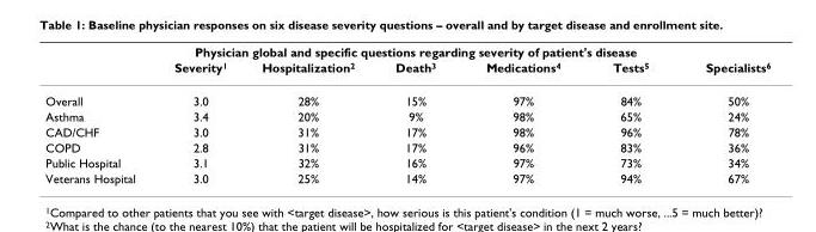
<table><thead><tr><td colspan="7">Physician global and specific questions regarding severity of patient&#x27;s disease</td></tr><tr><td></td><td>Severity<sup>1</sup></td><td>Hospitalization<sup>2</sup></td><td>Death<sup>3</sup></td><td>Medications<sup>4</sup></td><td>Tests<sup>5</sup></td><td>Specialists<sup>6</sup></td></tr></thead><tbody><tr><td>Overall</td><td>3.0</td><td>28%</td><td>15%</td><td>97%</td><td>84%</td><td>50%</td></tr><tr><td>Asthma</td><td>3.4</td><td>20%</td><td>9%</td><td>98%</td><td>65%</td><td>24%</td></tr><tr><td>CAD/CHF</td><td>3.0</td><td>31%</td><td>17%</td><td>98%</td><td>96%</td><td>78%</td></tr><tr><td>COPD</td><td>2.8</td><td>31%</td><td>17%</td><td>96%</td><td>83%</td><td>36%</td></tr><tr><td>Public Hospital</td><td>3.1</td><td>32%</td><td>16%</td><td>97%</td><td>73%</td><td>34%</td></tr><tr><td>Veterans Hospital</td><td>3.0</td><td>25%</td><td>14%</td><td>97%</td><td>94%</td><td>67%</td></tr></tbody></table>